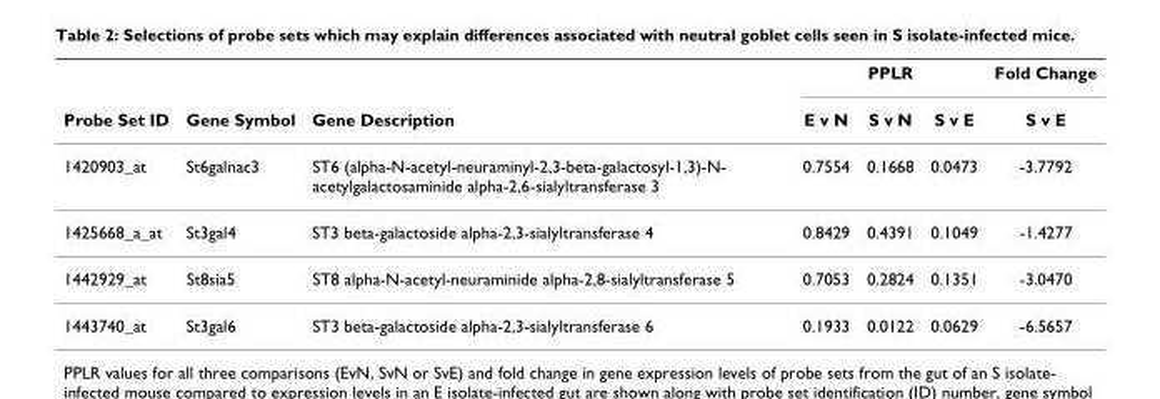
<table><thead><tr><td rowspan="2">Probe Set ID</td><td rowspan="2">Gene Symbol</td><td rowspan="2">Gene Description</td><td colspan="3">PPLR</td><td rowspan="2">Fold Change S v E</td></tr><tr><td>E v N</td><td>S v N</td><td>S v E</td></tr></thead><tbody><tr><td>1420903_at</td><td>St6galnac3</td><td>ST6 (alpha-N-acetyl-neuraminyl-2,3-beta-galactosyl-1,3)-N- acetylgalactosaminide alpha-2,6-sialyltransferase 3</td><td>0.7554</td><td>0.1668</td><td>0.0473</td><td>-3.7792</td></tr><tr><td>1425668_a_at</td><td>St3gal4</td><td>ST3 beta-galactoside alpha-2,3-sialyltransferase 4</td><td>0.8429</td><td>0.4391</td><td>0.1049</td><td>-1.4277</td></tr><tr><td>1442929_at</td><td>St8sia5</td><td>ST8 alpha-N-acetyl-neuraminide alpha-2,8-sialyltransferase 5</td><td>0.7053</td><td>0.2824</td><td>0.1351</td><td>-3.0470</td></tr><tr><td>1443740_at</td><td>St3gal6</td><td>ST3 beta-galactoside alpha-2,3-sialyltransferase 6</td><td>0.1933</td><td>0.0122</td><td>0.0629</td><td>-6.5657</td></tr></tbody></table>